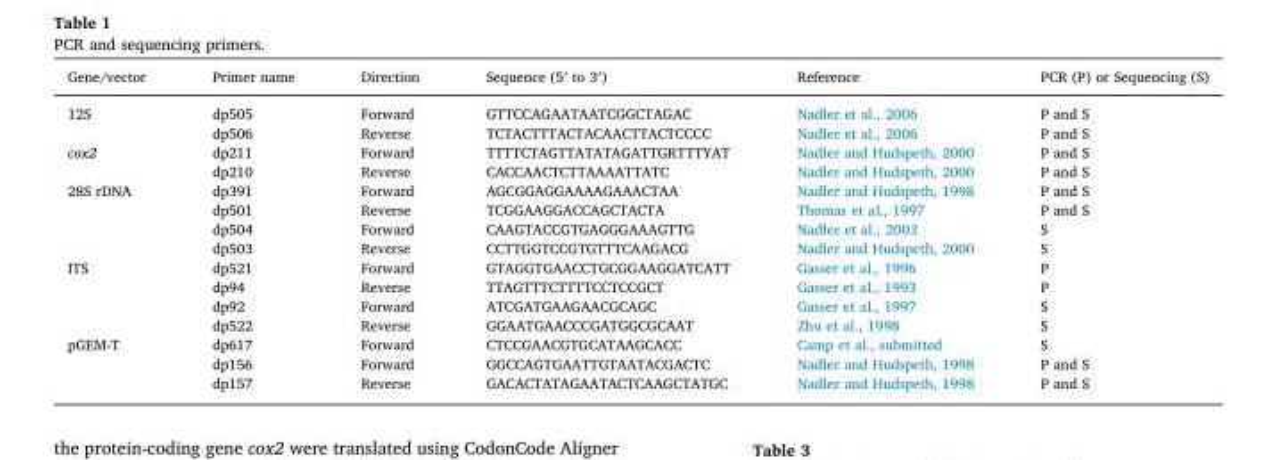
<table><thead><tr><td>Gene/vector</td><td>Primer name</td><td>Direction</td><td>Sequence (5′ to 3′)</td><td>Reference</td><td>PCR (P) or Sequencing (S)</td></tr></thead><tbody><tr><td rowspan="2">12S</td><td>dp505</td><td>Forward</td><td>GTTCCAGAATAATCGGCTAGAC</td><td>Nadler et al., 2006</td><td>P and S</td></tr><tr><td>dp506</td><td>Reverse</td><td>TCTACTTTACTACAACTTACTCCCC</td><td>Nadler et al., 2006</td><td>P and S</td></tr><tr><td rowspan="2">cox2</td><td>dp211</td><td>Forward</td><td>TTTTCTAGTTATATAGATTGRTTTYAT</td><td>Nadler and Hudspeth, 2000</td><td>P and S</td></tr><tr><td>dp210</td><td>Reverse</td><td>CACCAACTCTTAAAATTATC</td><td>Nadler and Hudspeth, 2000</td><td>P and S</td></tr><tr><td rowspan="4">28S rDNA</td><td>dp391</td><td>Forward</td><td>AGCGGAGGAAAAGAAACTAA</td><td>Nadler and Hudspeth, 1998</td><td>P and S</td></tr><tr><td>dp501</td><td>Reverse</td><td>TCGGAAGGACCAGCTACTA</td><td>Thomas et al., 1997</td><td>P and S</td></tr><tr><td>dp504</td><td>Forward</td><td>CAAGTACCGTGAGGGAAAGTTG</td><td>Nadler et al., 2003</td><td>S</td></tr><tr><td>dp503</td><td>Reverse</td><td>CCTTGGTCCGTGTTTCAAGACG</td><td>Nadler and Hudspeth, 2000</td><td>S</td></tr><tr><td rowspan="4">ITS</td><td>dp521</td><td>Forward</td><td>GTAGGTGAACCTGCGGAAGGATCATT</td><td>Gasser et al., 1996</td><td>P</td></tr><tr><td>dp94</td><td>Reverse</td><td>TTAGTTTCTTTTCCTCCGCT</td><td>Gasser et al., 1993</td><td>P</td></tr><tr><td>dp92</td><td>Forward</td><td>ATCGATGAAGAACGCAGC</td><td>Gasser et al., 1997</td><td>S</td></tr><tr><td>dp522</td><td>Reverse</td><td>GGAATGAACCCGATGGCGCAAT</td><td>Zhu et al., 1998</td><td>S</td></tr><tr><td rowspan="3">pGEM-T</td><td>dp617</td><td>Forward</td><td>CTCCGAACGTGCATAAGCACC</td><td>Camp et al., submitted</td><td>S</td></tr><tr><td>dp156</td><td>Forward</td><td>GGCCAGTGAATTGTAATACGACTC</td><td>Nadler and Hudspeth, 1998</td><td>P and S</td></tr><tr><td>dp157</td><td>Reverse</td><td>GACACTATAGAATACTCAAGCTATGC</td><td>Nadler and Hudspeth, 1998</td><td>P and S</td></tr></tbody></table>